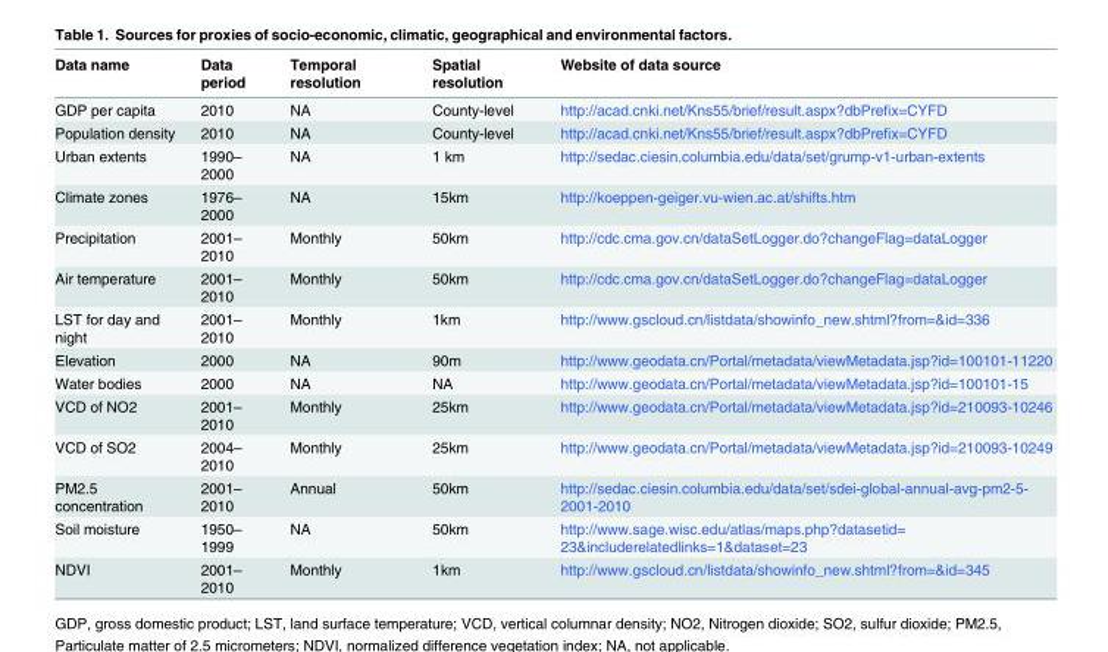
<table><thead><tr><td>Data name</td><td>Data period</td><td>Temporal resolution</td><td>Spatial resolution</td><td>Website of data source</td></tr></thead><tbody><tr><td>GDP per capita</td><td>2010</td><td>NA</td><td>County-level</td><td>http://acad.cnki.net/Kns55/brief/result.aspx?dbPrefix=CYFD</td></tr><tr><td>Population density</td><td>2010</td><td>NA</td><td>County-level</td><td>http://acad.cnki.net/Kns55/brief/result.aspx?dbPrefix=CYFD</td></tr><tr><td>Urban extents</td><td>1990– 2000</td><td>NA</td><td>1 km</td><td>http://sedac.ciesin.columbia.edu/data/set/grump-v1-urban-extents</td></tr><tr><td>Climate zones</td><td>1976– 2000</td><td>NA</td><td>15km</td><td>http://koeppen-geiger.vu-wien.ac.at/shifts.htm</td></tr><tr><td>Precipitation</td><td>2001– 2010</td><td>Monthly</td><td>50km</td><td>http://cdc.cma.gov.cn/dataSetLogger.do?changeFlag=dataLogger</td></tr><tr><td>Air temperature</td><td>2001– 2010</td><td>Monthly</td><td>50km</td><td>http://cdc.cma.gov.cn/dataSetLogger.do?changeFlag=dataLogger</td></tr><tr><td>LST for day and night</td><td>2001– 2010</td><td>Monthly</td><td>1km</td><td>http://www.gscloud.cn/listdata/showinfo_new.shtml?from=&amp;id=336</td></tr><tr><td>Elevation</td><td>2000</td><td>NA</td><td>90m</td><td>http://www.geodata.cn/Portal/metadata/viewMetadata.jsp?id=100101-11220</td></tr><tr><td>Water bodies</td><td>2000</td><td>NA</td><td>NA</td><td>http://www.geodata.cn/Portal/metadata/viewMetadata.jsp?id=100101-15</td></tr><tr><td>VCD of NO2</td><td>2001– 2010</td><td>Monthly</td><td>25km</td><td>http://www.geodata.cn/Portal/metadata/viewMetadata.jsp?id=210093-10246</td></tr><tr><td>VCD of SO2</td><td>2004– 2010</td><td>Monthly</td><td>25km</td><td>http://www.geodata.cn/Portal/metadata/viewMetadata.jsp?id=210093-10249</td></tr><tr><td>PM2.5 concentration</td><td>2001– 2010</td><td>Annual</td><td>50km</td><td>http://sedac.ciesin.columbia.edu/data/set/sdei-global-annual-avg-pm2-5- 2001-2010</td></tr><tr><td>Soil moisture</td><td>1950– 1999</td><td>NA</td><td>50km</td><td>http://www.sage.wisc.edu/atlas/maps.php?datasetid= 23&amp;includerelatedlinks=1&amp;dataset=23</td></tr><tr><td>NDVI</td><td>2001– 2010</td><td>Monthly</td><td>1km</td><td>http://www.gscloud.cn/listdata/showinfo_new.shtml?from=&amp;id=345</td></tr></tbody></table>